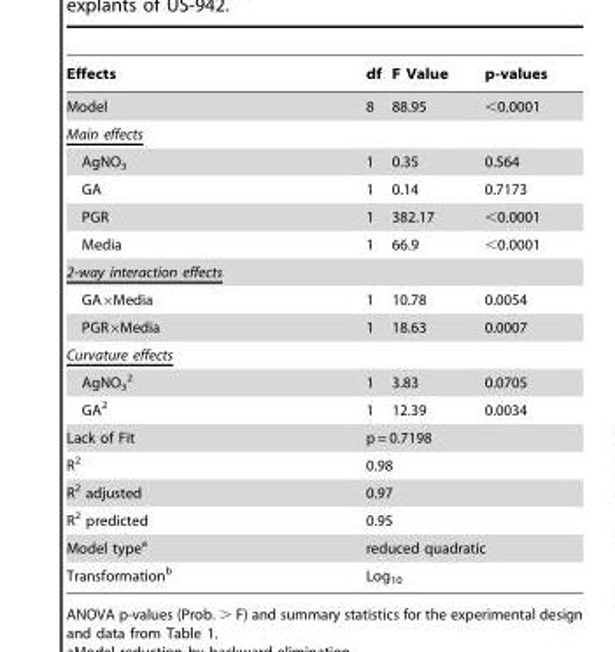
<table><thead><tr><td>Effects</td><td>df</td><td>F Value</td><td>p-values</td></tr></thead><tbody><tr><td>Model</td><td>8</td><td>88.95</td><td>&lt;0.0001</td></tr><tr><td colspan="4">Main effects</td></tr><tr><td>AgNO<sub>3</sub></td><td>1</td><td>0.35</td><td>0.564</td></tr><tr><td>GA</td><td>1</td><td>0.14</td><td>0.7173</td></tr><tr><td>PGR</td><td>1</td><td>382.17</td><td>&lt;0.0001</td></tr><tr><td>Media</td><td>1</td><td>66.9</td><td>&lt;0.0001</td></tr><tr><td colspan="4">2-way interaction effects</td></tr><tr><td>GA×Media</td><td>1</td><td>10.78</td><td>0.0054</td></tr><tr><td>PGR×Media</td><td>1</td><td>18.63</td><td>0.0007</td></tr><tr><td colspan="4">Curvature effects</td></tr><tr><td>AgNO<sub>3</sub> <sup>2</sup></td><td>1</td><td>3.83</td><td>0.0705</td></tr><tr><td>GA<sup>2</sup></td><td>1</td><td>12.39</td><td>0.0034</td></tr><tr><td>Lack of Fit</td><td colspan="3">p = 0.7198</td></tr><tr><td>R<sup>2</sup></td><td colspan="3">0.98</td></tr><tr><td>R<sup>2</sup> adjusted</td><td colspan="3">0.97</td></tr><tr><td>R<sup>2</sup> predicted</td><td colspan="3">0.95</td></tr><tr><td>Model type<sup>a</sup></td><td colspan="3">reduced quadratic</td></tr><tr><td>Transformation<sup>b</sup></td><td colspan="3">Log<sub>10</sub></td></tr></tbody></table>